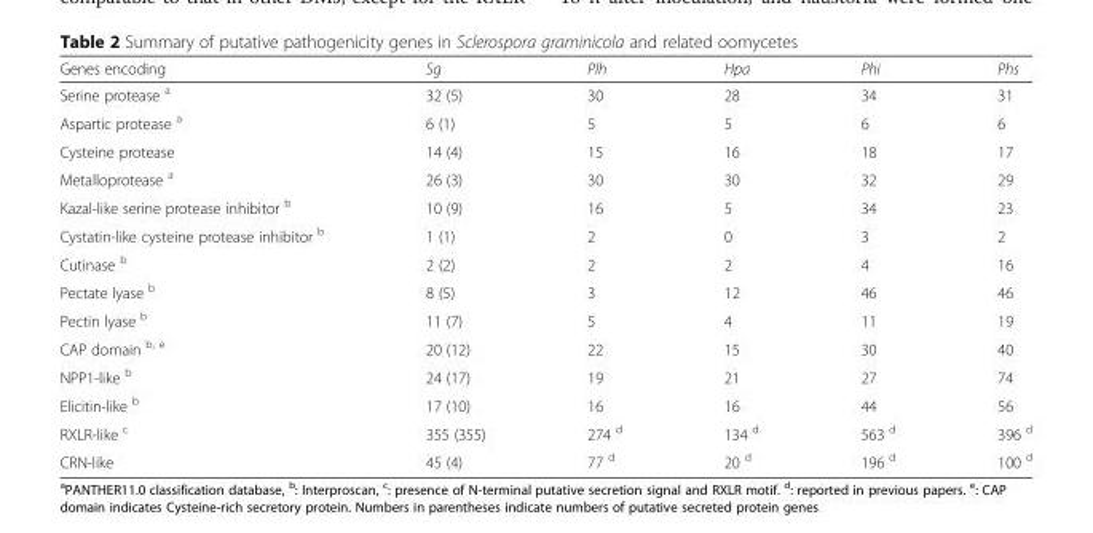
<table><thead><tr><td>Genes encoding</td><td>Sg</td><td>Plh</td><td>Hpa</td><td>Phi</td><td>Phs</td></tr></thead><tbody><tr><td>Serine protease <sup>a</sup></td><td>32 (5)</td><td>30</td><td>28</td><td>34</td><td>31</td></tr><tr><td>Aspartic protease <sup>a</sup></td><td>6 (1)</td><td>5</td><td>5</td><td>6</td><td>6</td></tr><tr><td>Cysteine protease</td><td>14 (4)</td><td>15</td><td>16</td><td>18</td><td>17</td></tr><tr><td>Metalloprotease <sup>a</sup></td><td>26 (3)</td><td>30</td><td>30</td><td>32</td><td>29</td></tr><tr><td>Kazal-like serine protease inhibitor <sup>b</sup></td><td>10 (9)</td><td>16</td><td>5</td><td>34</td><td>23</td></tr><tr><td>Cystatin-like cysteine protease inhibitor <sup>b</sup></td><td>1 (1)</td><td>2</td><td>0</td><td>3</td><td>2</td></tr><tr><td>Cutinase <sup>b</sup></td><td>2 (2)</td><td>2</td><td>2</td><td>4</td><td>16</td></tr><tr><td>Pectate lyase <sup>b</sup></td><td>8 (5)</td><td>3</td><td>12</td><td>46</td><td>46</td></tr><tr><td>Pectin lyase <sup>b</sup></td><td>11 (7)</td><td>5</td><td>4</td><td>11</td><td>19</td></tr><tr><td>CAP domain <sup>b, e</sup></td><td>20 (12)</td><td>22</td><td>15</td><td>30</td><td>40</td></tr><tr><td>NPP1-like <sup>b</sup></td><td>24 (17)</td><td>19</td><td>21</td><td>27</td><td>74</td></tr><tr><td>Elicitin-like <sup>b</sup></td><td>17 (10)</td><td>16</td><td>16</td><td>44</td><td>56</td></tr><tr><td>RXLR-like <sup>c</sup></td><td>355 (355)</td><td>274 <sup>d</sup></td><td>134 <sup>d</sup></td><td>563 <sup>d</sup></td><td>396 <sup>d</sup></td></tr><tr><td>CRN-like</td><td>45 (4)</td><td>77 <sup>d</sup></td><td>20 <sup>d</sup></td><td>196 <sup>d</sup></td><td>100 <sup>d</sup></td></tr></tbody></table>